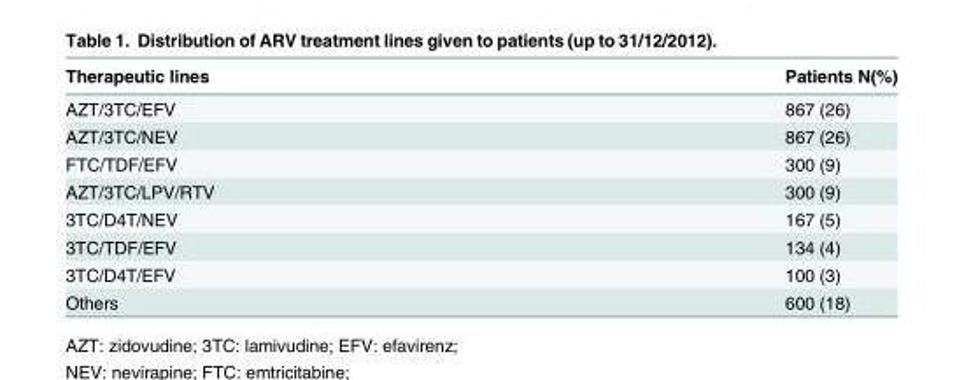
<table><thead><tr><td>Therapeutic lines</td><td>Patients N(%)</td></tr></thead><tbody><tr><td>AZT/3TC/EFV</td><td>867 (26)</td></tr><tr><td>AZT/3TC/NEV</td><td>867 (26)</td></tr><tr><td>FTC/TDF/EFV</td><td>300 (9)</td></tr><tr><td>AZT/3TC/LPV/RTV</td><td>300 (9)</td></tr><tr><td>3TC/D4T/NEV</td><td>167 (5)</td></tr><tr><td>3TC/TDF/EFV</td><td>134 (4)</td></tr><tr><td>3TC/D4T/EFV</td><td>100 (3)</td></tr><tr><td>Others</td><td>600 (18)</td></tr></tbody></table>